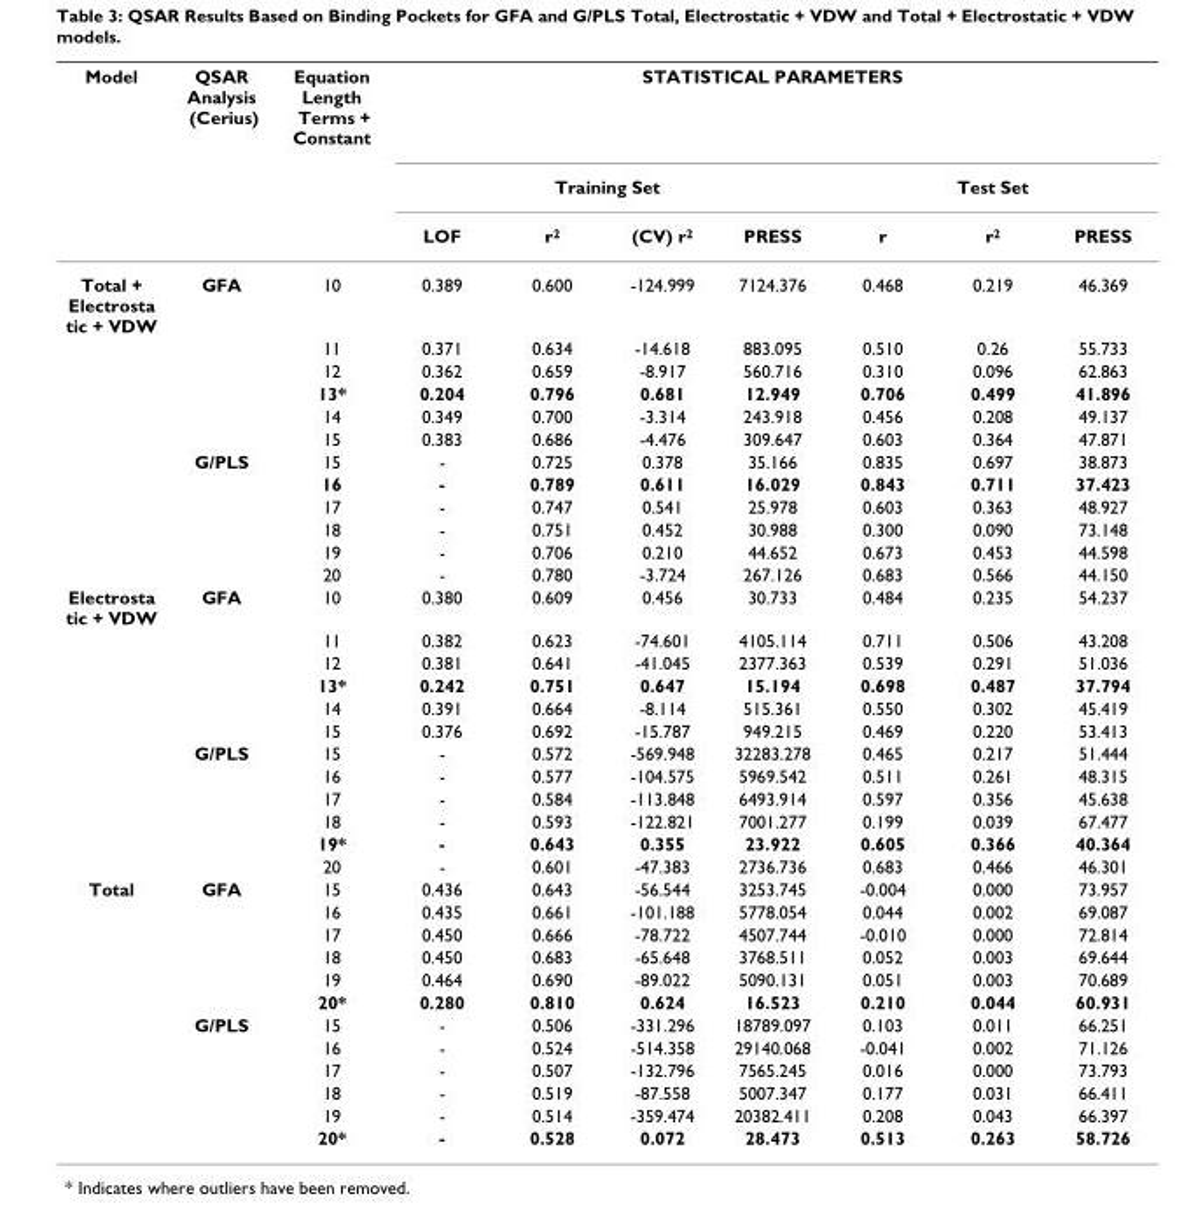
<table><thead><tr><td rowspan="3">Model</td><td rowspan="3">QSAR Analysis (Cerius)</td><td rowspan="3">Equation Length Terms + Constant</td><td colspan="7">STATISTICAL PARAMETERS</td></tr><tr><td colspan="4">Training Set</td><td colspan="3">Test Set</td></tr><tr><td>LOF</td><td>r2</td><td>(CV) r2</td><td>PRESS</td><td>r</td><td>r2</td><td>PRESS</td></tr></thead><tbody><tr><td rowspan="12">Total + Electrosta tic + VDW</td><td>GFA</td><td>10</td><td>0.389</td><td>0.600</td><td>-124.999</td><td>7124.376</td><td>0.468</td><td>0.219</td><td>46.369</td></tr><tr><td></td><td>11</td><td>0.371</td><td>0.634</td><td>-14.618</td><td>883.095</td><td>0.510</td><td>0.26</td><td>55.733</td></tr><tr><td></td><td>12</td><td>0.362</td><td>0.659</td><td>-8.917</td><td>560.716</td><td>0.310</td><td>0.096</td><td>62.863</td></tr><tr><td></td><td>13*</td><td>0.204</td><td>0.796</td><td>0.681</td><td>12.949</td><td>0.706</td><td>0.499</td><td>41.896</td></tr><tr><td></td><td>14</td><td>0.349</td><td>0.700</td><td>-3.314</td><td>243.918</td><td>0.456</td><td>0.208</td><td>49.137</td></tr><tr><td></td><td>15</td><td>0.383</td><td>0.686</td><td>-4.476</td><td>309.647</td><td>0.603</td><td>0.364</td><td>47.871</td></tr><tr><td>G/PLS</td><td>15</td><td>-</td><td>0.725</td><td>0.378</td><td>35.166</td><td>0.835</td><td>0.697</td><td>38.873</td></tr><tr><td></td><td>16</td><td>-</td><td>0.789</td><td>0.611</td><td>16.029</td><td>0.843</td><td>0.711</td><td>37.423</td></tr><tr><td></td><td>17</td><td>-</td><td>0.747</td><td>0.541</td><td>25.978</td><td>0.603</td><td>0.363</td><td>48.927</td></tr><tr><td></td><td>18</td><td>-</td><td>0.751</td><td>0.452</td><td>30.988</td><td>0.300</td><td>0.090</td><td>73.148</td></tr><tr><td></td><td>19</td><td>-</td><td>0.706</td><td>0.210</td><td>44.652</td><td>0.673</td><td>0.453</td><td>44.598</td></tr><tr><td></td><td>20</td><td>-</td><td>0.780</td><td>-3.724</td><td>267.126</td><td>0.683</td><td>0.566</td><td>44.150</td></tr><tr><td rowspan="12">Electrosta tic + VDW</td><td>GFA</td><td>10</td><td>0.380</td><td>0.609</td><td>0.456</td><td>30.733</td><td>0.484</td><td>0.235</td><td>54.237</td></tr><tr><td></td><td>11</td><td>0.382</td><td>0.623</td><td>-74.601</td><td>4105.114</td><td>0.711</td><td>0.506</td><td>43.208</td></tr><tr><td></td><td>12</td><td>0.381</td><td>0.641</td><td>-41.045</td><td>2377.363</td><td>0.539</td><td>0.291</td><td>51.036</td></tr><tr><td></td><td>13*</td><td>0.242</td><td>0.751</td><td>0.647</td><td>15.194</td><td>0.698</td><td>0.487</td><td>37.794</td></tr><tr><td></td><td>14</td><td>0.391</td><td>0.664</td><td>-8.114</td><td>515.361</td><td>0.550</td><td>0.302</td><td>45.419</td></tr><tr><td></td><td>15</td><td>0.376</td><td>0.692</td><td>-15.787</td><td>949.215</td><td>0.469</td><td>0.220</td><td>53.413</td></tr><tr><td>G/PLS</td><td>15</td><td>-</td><td>0.572</td><td>-569.948</td><td>32283.278</td><td>0.465</td><td>0.217</td><td>51.444</td></tr><tr><td></td><td>16</td><td>-</td><td>0.577</td><td>-104.575</td><td>5969.542</td><td>0.511</td><td>0.261</td><td>48.315</td></tr><tr><td></td><td>17</td><td>-</td><td>0.584</td><td>-113.848</td><td>6493.914</td><td>0.597</td><td>0.356</td><td>45.638</td></tr><tr><td></td><td>18</td><td>-</td><td>0.593</td><td>-122.821</td><td>7001.277</td><td>0.199</td><td>0.039</td><td>67.477</td></tr><tr><td></td><td>19*</td><td>-</td><td>0.643</td><td>0.355</td><td>23.922</td><td>0.605</td><td>0.366</td><td>40.364</td></tr><tr><td></td><td>20</td><td>-</td><td>0.601</td><td>-47.383</td><td>2736.736</td><td>0.683</td><td>0.466</td><td>46.301</td></tr><tr><td rowspan="12">Total</td><td>GFA</td><td>15</td><td>0.436</td><td>0.643</td><td>-56.544</td><td>3253.745</td><td>-0.004</td><td>0.000</td><td>73.957</td></tr><tr><td></td><td>16</td><td>0.435</td><td>0.661</td><td>-101.188</td><td>5778.054</td><td>0.044</td><td>0.002</td><td>69.087</td></tr><tr><td></td><td>17</td><td>0.450</td><td>0.666</td><td>-78.722</td><td>4507.744</td><td>-0.010</td><td>0.000</td><td>72.814</td></tr><tr><td></td><td>18</td><td>0.450</td><td>0.683</td><td>-65.648</td><td>3768.511</td><td>0.052</td><td>0.003</td><td>69.644</td></tr><tr><td></td><td>19</td><td>0.464</td><td>0.690</td><td>-89.022</td><td>5090.131</td><td>0.051</td><td>0.003</td><td>70.689</td></tr><tr><td></td><td>20*</td><td>0.280</td><td>0.810</td><td>0.624</td><td>16.523</td><td>0.210</td><td>0.044</td><td>60.931</td></tr><tr><td>G/PLS</td><td>15</td><td>-</td><td>0.506</td><td>-331.296</td><td>18789.097</td><td>0.103</td><td>0.011</td><td>66.251</td></tr><tr><td></td><td>16</td><td>-</td><td>0.524</td><td>-514.358</td><td>29140.068</td><td>-0.041</td><td>0.002</td><td>71.126</td></tr><tr><td></td><td>17</td><td>-</td><td>0.507</td><td>-132.796</td><td>7565.245</td><td>0.016</td><td>0.000</td><td>73.793</td></tr><tr><td></td><td>18</td><td>-</td><td>0.519</td><td>-87.558</td><td>5007.347</td><td>0.177</td><td>0.031</td><td>66.411</td></tr><tr><td></td><td>19</td><td>-</td><td>0.514</td><td>-359.474</td><td>20382.411</td><td>0.208</td><td>0.043</td><td>66.397</td></tr><tr><td></td><td>20*</td><td>-</td><td>0.528</td><td>0.072</td><td>28.473</td><td>0.513</td><td>0.263</td><td>58.726</td></tr></tbody></table>